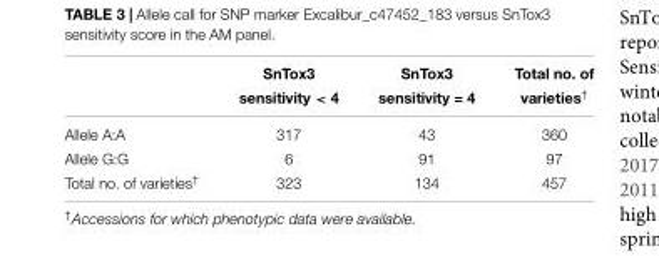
<table><thead><tr><td rowspan="2"></td><td rowspan="2">SnTox3 sensitivity &lt; 4</td><td rowspan="2">SnTox3 sensitivity = 4</td><td rowspan="2">Total no. of varieties<sup>†</sup></td></tr><tr></tr></thead><tbody><tr><td>Allele A:A</td><td>317</td><td>43</td><td>360</td></tr><tr><td>Allele G:G</td><td>6</td><td>91</td><td>97</td></tr><tr><td>Total no. of varieties†</td><td>323</td><td>134</td><td>457</td></tr></tbody></table>